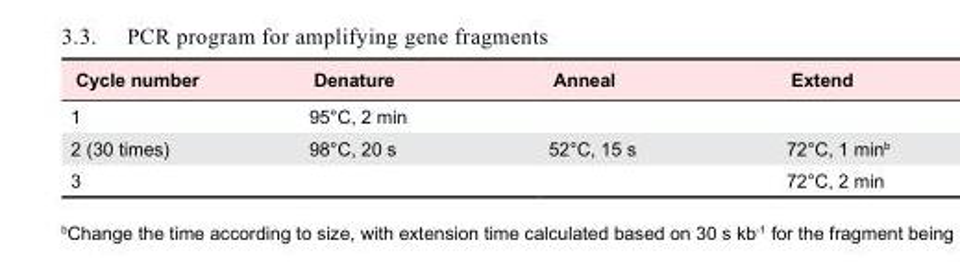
<table><tbody><tr><td>Cycle number</td><td>Denature</td><td>Anneal</td><td>Extend</td></tr><tr><td>1</td><td>95°C, 2 min</td><td></td><td></td></tr><tr><td>2 (30 times)</td><td>98°C, 20 s</td><td>52°C, 15 s</td><td>72°C, 1 min<sup>b</sup></td></tr><tr><td>3</td><td></td><td></td><td>72°C, 2 min</td></tr></tbody></table>